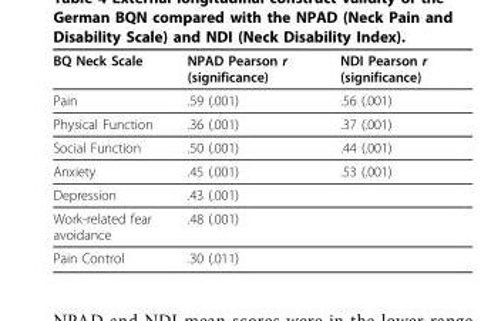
<table><thead><tr><td>BQ Neck Scale</td><td>NPAD Pearson r (significance)</td><td>NDI Pearson r (significance)</td></tr></thead><tbody><tr><td>Pain</td><td>.59 (.001)</td><td>.56 (.001)</td></tr><tr><td>Physical Function</td><td>.36 (.001)</td><td>.37 (.001)</td></tr><tr><td>Social Function</td><td>.50 (.001)</td><td>.44 (.001)</td></tr><tr><td>Anxiety</td><td>.45 (.001)</td><td>.53 (.001)</td></tr><tr><td>Depression</td><td>.43 (.001)</td><td></td></tr><tr><td>Work-related fear avoidance</td><td>.48 (.001)</td><td></td></tr><tr><td>Pain Control</td><td>.30 (.011)</td><td></td></tr></tbody></table>